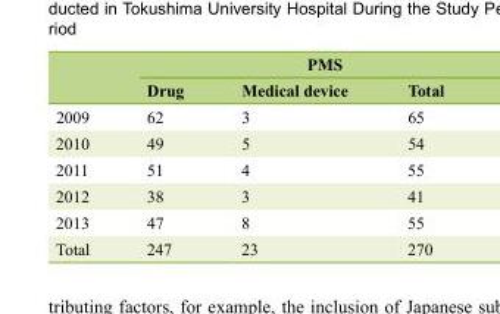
<table><thead><tr><td rowspan="2"></td><td colspan="3">PMS</td></tr><tr><td>Drug</td><td>Medical device</td><td>Total</td></tr></thead><tbody><tr><td>2009</td><td>62</td><td>3</td><td>65</td></tr><tr><td>2010</td><td>49</td><td>5</td><td>54</td></tr><tr><td>2011</td><td>51</td><td>4</td><td>55</td></tr><tr><td>2012</td><td>38</td><td>3</td><td>41</td></tr><tr><td>2013</td><td>47</td><td>8</td><td>55</td></tr><tr><td>Total</td><td>247</td><td>23</td><td>270</td></tr></tbody></table>